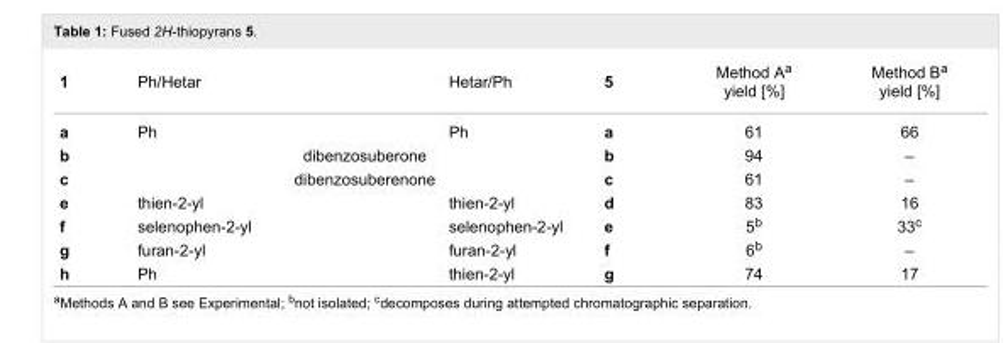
<table><tbody><tr><td>1</td><td>Ph/Hetar</td><td>Hetar/Ph</td><td>5</td><td>Method A<sup>a</sup> yield [%]</td><td>Method B<sup>a</sup> yield [%]</td></tr><tr><td>a</td><td>Ph</td><td>Ph</td><td>a</td><td>61</td><td>66</td></tr><tr><td>b</td><td colspan="2">dibenzosuberone</td><td>b</td><td>94</td><td>–</td></tr><tr><td>c</td><td colspan="2">dibenzosuberenone</td><td>c</td><td>61</td><td>–</td></tr><tr><td>e</td><td>thien-2-yl</td><td>thien-2-yl</td><td>d</td><td>83</td><td>16</td></tr><tr><td>f</td><td>selenophen-2-yl</td><td>selenophen-2-yl</td><td>e</td><td>5<sup>b</sup></td><td>33<sup>c</sup></td></tr><tr><td>g</td><td>furan-2-yl</td><td>furan-2-yl</td><td>f</td><td>6<sup>b</sup></td><td>–</td></tr><tr><td>h</td><td>Ph</td><td>thien-2-yl</td><td>g</td><td>74</td><td>17</td></tr></tbody></table>